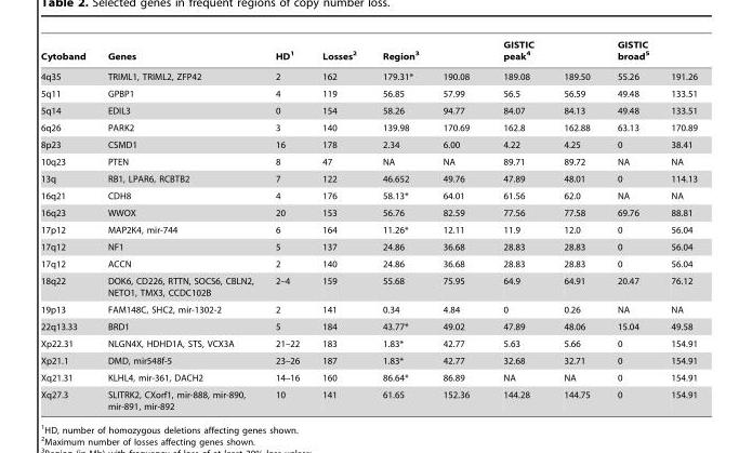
<table><thead><tr><td>Cytoband</td><td>Genes</td><td>HD<sup>1</sup></td><td>Losses<sup>2</sup></td><td>Region<sup>3</sup></td><td></td><td>GISTIC peak<sup>4</sup></td><td></td><td>GISTIC broad<sup>5</sup></td><td></td></tr></thead><tbody><tr><td>4q35</td><td>TRIML1, TRIML2, ZFP42</td><td>2</td><td>162</td><td>179.31*</td><td>190.08</td><td>189.08</td><td>189.50</td><td>55.26</td><td>191.26</td></tr><tr><td>5q11</td><td>GPBP1</td><td>4</td><td>119</td><td>56.85</td><td>57.99</td><td>56.5</td><td>56.59</td><td>49.48</td><td>133.51</td></tr><tr><td>5q14</td><td>EDIL3</td><td>0</td><td>154</td><td>58.26</td><td>94.77</td><td>84.07</td><td>84.13</td><td>49.48</td><td>133.51</td></tr><tr><td>6q26</td><td>PARK2</td><td>3</td><td>140</td><td>139.98</td><td>170.69</td><td>162.8</td><td>162.88</td><td>63.13</td><td>170.89</td></tr><tr><td>8p23</td><td>CSMD1</td><td>16</td><td>178</td><td>2.34</td><td>6.00</td><td>4.22</td><td>4.25</td><td>0</td><td>38.41</td></tr><tr><td>10q23</td><td>PTEN</td><td>8</td><td>47</td><td>NA</td><td>NA</td><td>89.71</td><td>89.72</td><td>NA</td><td>NA</td></tr><tr><td>13q</td><td>RB1, LPAR6, RCBTB2</td><td>7</td><td>122</td><td>46.652</td><td>49.76</td><td>47.89</td><td>48.01</td><td>0</td><td>114.13</td></tr><tr><td>16q21</td><td>CDH8</td><td>4</td><td>176</td><td>58.13*</td><td>64.01</td><td>61.56</td><td>62.0</td><td>NA</td><td>NA</td></tr><tr><td>16q23</td><td>WWOX</td><td>20</td><td>153</td><td>56.76</td><td>82.59</td><td>77.56</td><td>77.58</td><td>69.76</td><td>88.81</td></tr><tr><td>17p12</td><td>MAP2K4, mir-744</td><td>6</td><td>164</td><td>11.26*</td><td>12.11</td><td>11.9</td><td>12.0</td><td>0</td><td>56.04</td></tr><tr><td>17q12</td><td>NF1</td><td>5</td><td>137</td><td>24.86</td><td>36.68</td><td>28.83</td><td>28.83</td><td>0</td><td>56.04</td></tr><tr><td>17q12</td><td>ACCN</td><td>2</td><td>140</td><td>24.86</td><td>36.68</td><td>28.83</td><td>28.83</td><td>0</td><td>56.04</td></tr><tr><td>18q22</td><td>DOK6, CD226, RTTN, SOCS6, CBLN2, NETO1, TMX3, CCDC102B</td><td>2–4</td><td>159</td><td>55.68</td><td>75.95</td><td>64.9</td><td>64.91</td><td>20.47</td><td>76.12</td></tr><tr><td>19p13</td><td>FAM148C, SHC2, mir-1302-2</td><td>2</td><td>141</td><td>0.34</td><td>4.84</td><td>0</td><td>0.26</td><td>NA</td><td>NA</td></tr><tr><td>22q13.33</td><td>BRD1</td><td>5</td><td>184</td><td>43.77*</td><td>49.02</td><td>47.89</td><td>48.06</td><td>15.04</td><td>49.58</td></tr><tr><td>Xp22.31</td><td>NLGN4X, HDHD1A, STS, VCX3A</td><td>21–22</td><td>183</td><td>1.83*</td><td>42.77</td><td>5.63</td><td>5.66</td><td>0</td><td>154.91</td></tr><tr><td>Xp21.1</td><td>DMD, mir548f-5</td><td>23–26</td><td>187</td><td>1.83*</td><td>42.77</td><td>32.68</td><td>32.71</td><td>0</td><td>154.91</td></tr><tr><td>Xq21.31</td><td>KLHL4, mir-361, DACH2</td><td>14–16</td><td>160</td><td>86.64*</td><td>86.89</td><td>NA</td><td>NA</td><td>0</td><td>154.91</td></tr><tr><td>Xq27.3</td><td>SLITRK2, CXorf1, mir-888, mir-890, mir-891, mir-892</td><td>10</td><td>141</td><td>61.65</td><td>152.36</td><td>144.28</td><td>144.75</td><td>0</td><td>154.91</td></tr></tbody></table>